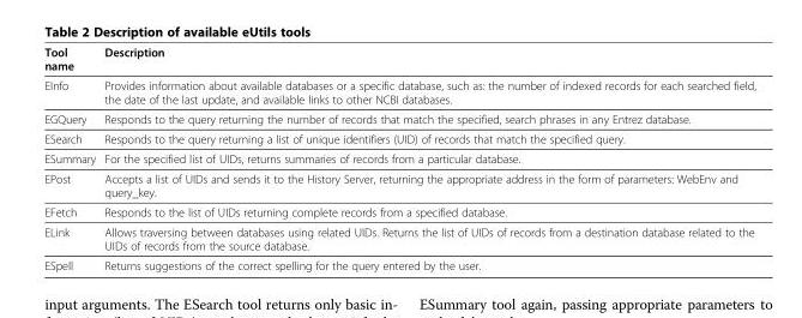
<table><thead><tr><td>Tool name</td><td>Description</td></tr></thead><tbody><tr><td>EInfo</td><td>Provides information about available databases or a specific database, such as: the number of indexed records for each searched field, the date of the last update, and available links to other NCBI databases.</td></tr><tr><td>EGQuery</td><td>Responds to the query returning the number of records that match the specified, search phrases in any Entrez database.</td></tr><tr><td>ESearch</td><td>Responds to the query returning a list of unique identifiers (UID) of records that match the specified query.</td></tr><tr><td>ESummary</td><td>For the specified list of UIDs, returns summaries of records from a particular database.</td></tr><tr><td>EPost</td><td>Accepts a list of UIDs and sends it to the History Server, returning the appropriate address in the form of parameters: WebEnv and query_key.</td></tr><tr><td>EFetch</td><td>Responds to the list of UIDs returning complete records from a specified database.</td></tr><tr><td>ELink</td><td>Allows traversing between databases using related UIDs. Returns the list of UIDs of records from a destination database related to the UIDs of records from the source database.</td></tr><tr><td>ESpell</td><td>Returns suggestions of the correct spelling for the query entered by the user.</td></tr></tbody></table>